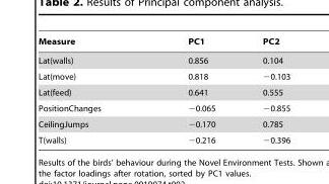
<table><thead><tr><td>Measure</td><td>PC1</td><td>PC2</td></tr></thead><tbody><tr><td>Lat(walls)</td><td>0.856</td><td>0.104</td></tr><tr><td>Lat(move)</td><td>0.818</td><td>−0.103</td></tr><tr><td>Lat(feed)</td><td>0.641</td><td>0.555</td></tr><tr><td>PositionChanges</td><td>−0.065</td><td>−0.855</td></tr><tr><td>CeilingJumps</td><td>−0.170</td><td>0.785</td></tr><tr><td>T(walls)</td><td>−0.216</td><td>−0.396</td></tr></tbody></table>